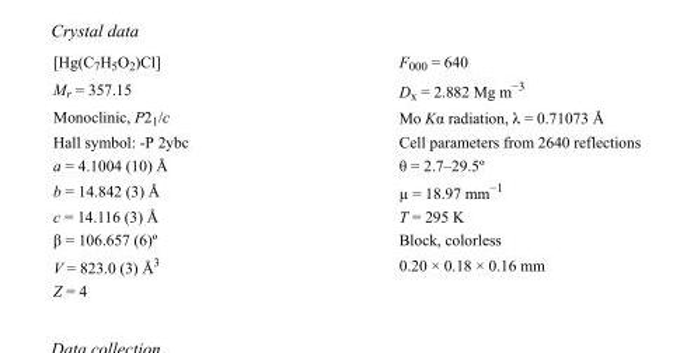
<table><tbody><tr><td>[Hg(C<sub>7</sub>H<sub>5</sub>O<sub>2</sub>)Cl]</td><td>F000 = 640</td></tr><tr><td>M<sub>r</sub> = 357.15</td><td>D<sub>x</sub> = 2.882 Mg m<sup>−3</sup></td></tr><tr><td>Monoclinic, P2<sub>1</sub>/c</td><td>Mo Kα radiation, λ = 0.71073 Å</td></tr><tr><td>Hall symbol: -P 2ybc</td><td>Cell parameters from 2640 reflections</td></tr><tr><td>a = 4.1004 (10) Å</td><td>θ = 2.7–29.5º</td></tr><tr><td>b = 14.842 (3) Å</td><td>µ = 18.97 mm<sup>−1</sup></td></tr><tr><td>c = 14.116 (3) Å</td><td>T = 295 K</td></tr><tr><td>β = 106.657 (6)º</td><td>Block, colorless</td></tr><tr><td>V = 823.0 (3) Å<sup>3</sup></td><td>0.20 × 0.18 × 0.16 mm</td></tr><tr><td>Z = 4</td><td></td></tr></tbody></table>